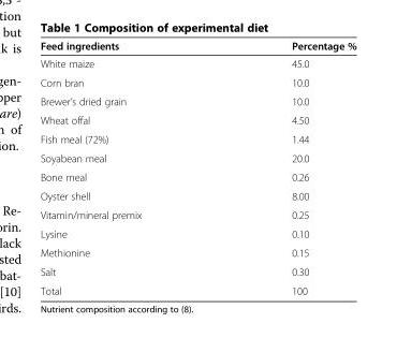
<table><thead><tr><td>Feed ingredients</td><td>Percentage %</td></tr></thead><tbody><tr><td>White maize</td><td>45.0</td></tr><tr><td>Corn bran</td><td>10.0</td></tr><tr><td>Brewer’s dried grain</td><td>10.0</td></tr><tr><td>Wheat offal</td><td>4.50</td></tr><tr><td>Fish meal (72%)</td><td>1.44</td></tr><tr><td>Soyabean meal</td><td>20.0</td></tr><tr><td>Bone meal</td><td>0.26</td></tr><tr><td>Oyster shell</td><td>8.00</td></tr><tr><td>Vitamin/mineral premix</td><td>0.25</td></tr><tr><td>Lysine</td><td>0.10</td></tr><tr><td>Methionine</td><td>0.15</td></tr><tr><td>Salt</td><td>0.30</td></tr><tr><td>Total</td><td>100</td></tr></tbody></table>